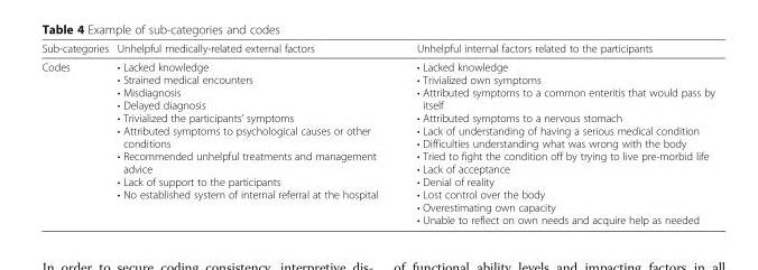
<table><thead><tr><td>Sub-categories</td><td>Unhelpful medically-related external factors</td><td>Unhelpful internal factors related to the participants</td></tr></thead><tbody><tr><td>Codes</td><td>• Lacked knowledge • Strained medical encounters • Misdiagnosis • Delayed diagnosis • Trivialized the participants’ symptoms • Attributed symptoms to psychological causes or other conditions • Recommended unhelpful treatments and management advice • Lack of support to the participants • No established system of internal referral at the hospital</td><td>• Lacked knowledge • Trivialized own symptoms • Attributed symptoms to a common enteritis that would pass by itself • Attributed symptoms to a nervous stomach • Lack of understanding of having a serious medical condition • Difficulties understanding what was wrong with the body • Tried to fight the condition off by trying to live pre-morbid life • Lack of acceptance • Denial of reality • Lost control over the body • Overestimating own capacity • Unable to reflect on own needs and acquire help as needed</td></tr></tbody></table>